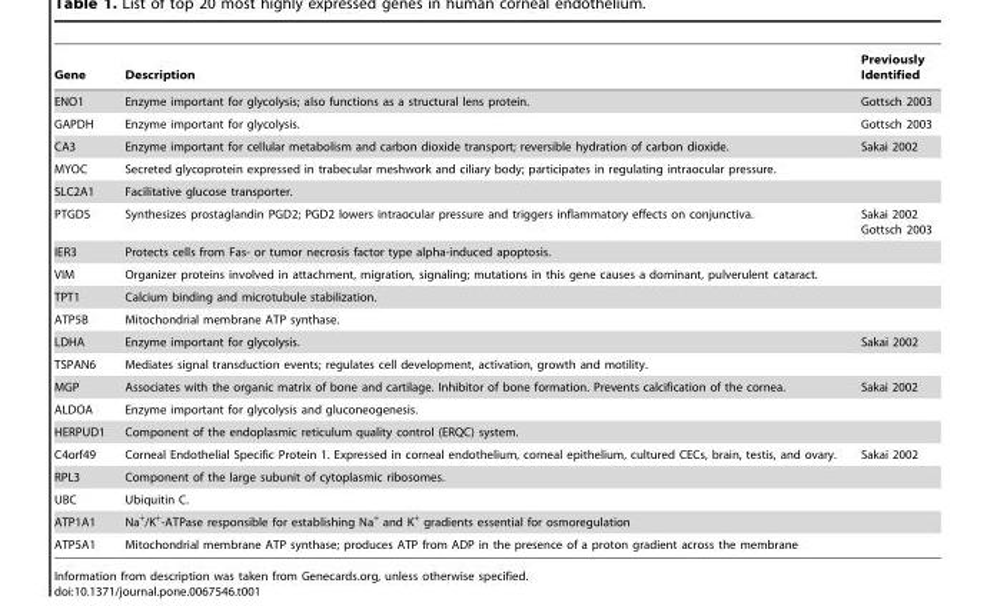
<table><thead><tr><td>Gene</td><td>Description</td><td>Previously Identified</td></tr></thead><tbody><tr><td>ENO1</td><td>Enzyme important for glycolysis; also functions as a structural lens protein.</td><td>Gottsch 2003</td></tr><tr><td>GAPDH</td><td>Enzyme important for glycolysis.</td><td>Gottsch 2003</td></tr><tr><td>CA3</td><td>Enzyme important for cellular metabolism and carbon dioxide transport; reversible hydration of carbon dioxide.</td><td>Sakai 2002</td></tr><tr><td>MYOC</td><td>Secreted glycoprotein expressed in trabecular meshwork and ciliary body; participates in regulating intraocular pressure.</td><td></td></tr><tr><td>SLC2A1</td><td>Facilitative glucose transporter.</td><td></td></tr><tr><td>PTGDS</td><td>Synthesizes prostaglandin PGD2; PGD2 lowers intraocular pressure and triggers inflammatory effects on conjunctiva.</td><td>Sakai 2002 Gottsch 2003</td></tr><tr><td>IER3</td><td>Protects cells from Fas- or tumor necrosis factor type alpha-induced apoptosis.</td><td></td></tr><tr><td>VIM</td><td>Organizer proteins involved in attachment, migration, signaling; mutations in this gene causes a dominant, pulverulent cataract.</td><td></td></tr><tr><td>TPT1</td><td>Calcium binding and microtubule stabilization.</td><td></td></tr><tr><td>ATP5B</td><td>Mitochondrial membrane ATP synthase.</td><td></td></tr><tr><td>LDHA</td><td>Enzyme important for glycolysis.</td><td>Sakai 2002</td></tr><tr><td>TSPAN6</td><td>Mediates signal transduction events; regulates cell development, activation, growth and motility.</td><td></td></tr><tr><td>MGP</td><td>Associates with the organic matrix of bone and cartilage. Inhibitor of bone formation. Prevents calcification of the cornea.</td><td>Sakai 2002</td></tr><tr><td>ALDOA</td><td>Enzyme important for glycolysis and gluconeogenesis.</td><td></td></tr><tr><td>HERPUD1</td><td>Component of the endoplasmic reticulum quality control (ERQC) system.</td><td></td></tr><tr><td>C4orf49</td><td>Corneal Endothelial Specific Protein 1. Expressed in corneal endothelium, corneal epithelium, cultured CECs, brain, testis, and ovary.</td><td>Sakai 2002</td></tr><tr><td>RPL3</td><td>Component of the large subunit of cytoplasmic ribosomes.</td><td></td></tr><tr><td>UBC</td><td>Ubiquitin C.</td><td></td></tr><tr><td>ATP1A1</td><td>Na<sup>+</sup>/K<sup>+</sup>-ATPase responsible for establishing Na<sup>+</sup> and K<sup>+</sup> gradients essential for osmoregulation</td><td></td></tr><tr><td>ATP5A1</td><td>Mitochondrial membrane ATP synthase; produces ATP from ADP in the presence of a proton gradient across the membrane</td><td></td></tr></tbody></table>